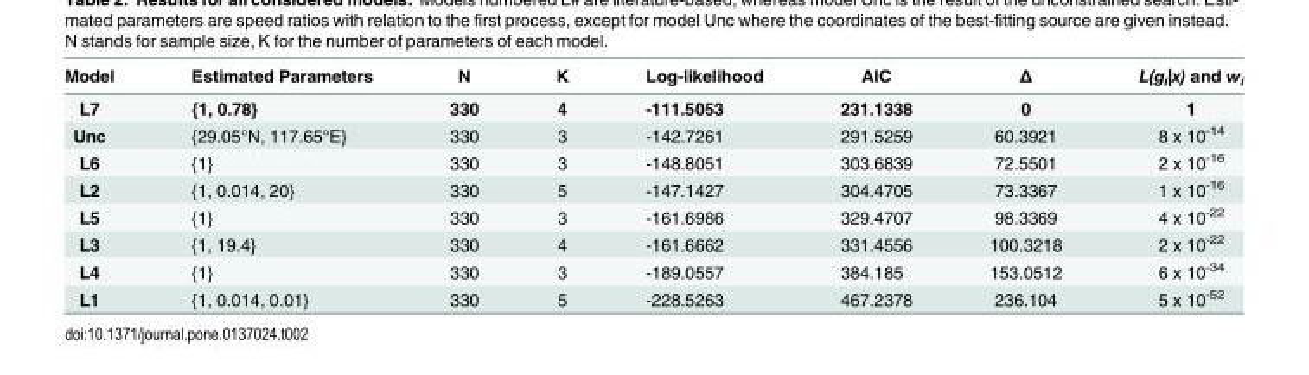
<table><thead><tr><td>Model</td><td>Estimated Parameters</td><td>N</td><td>K</td><td>Log-likelihood</td><td>AIC</td><td>Δ</td><td>L(g<sub>i</sub>|x) and w<sub>i</sub></td></tr></thead><tbody><tr><td>L7</td><td>{1, 0.78}</td><td>330</td><td>4</td><td>-111.5053</td><td>231.1338</td><td>0</td><td>1</td></tr><tr><td>Unc</td><td>{29.05°N, 117.65°E}</td><td>330</td><td>3</td><td>-142.7261</td><td>291.5259</td><td>60.3921</td><td>8 x 10<sup>-14</sup></td></tr><tr><td>L6</td><td>{1}</td><td>330</td><td>3</td><td>-148.8051</td><td>303.6839</td><td>72.5501</td><td>2 x 10<sup>-16</sup></td></tr><tr><td>L2</td><td>{1, 0.014, 20}</td><td>330</td><td>5</td><td>-147.1427</td><td>304.4705</td><td>73.3367</td><td>1 x 10<sup>-16</sup></td></tr><tr><td>L5</td><td>{1}</td><td>330</td><td>3</td><td>-161.6986</td><td>329.4707</td><td>98.3369</td><td>4 x 10<sup>-22</sup></td></tr><tr><td>L3</td><td>{1, 19.4}</td><td>330</td><td>4</td><td>-161.6662</td><td>331.4556</td><td>100.3218</td><td>2 x 10<sup>-22</sup></td></tr><tr><td>L4</td><td>{1}</td><td>330</td><td>3</td><td>-189.0557</td><td>384.185</td><td>153.0512</td><td>6 x 10<sup>-34</sup></td></tr><tr><td>L1</td><td>{1, 0.014, 0.01}</td><td>330</td><td>5</td><td>-228.5263</td><td>467.2378</td><td>236.104</td><td>5 x 10<sup>-52</sup></td></tr></tbody></table>